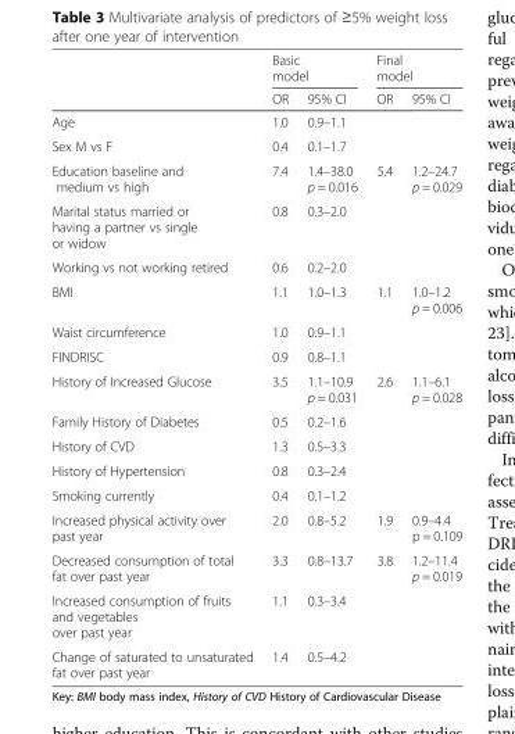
<table><thead><tr><td rowspan="2"></td><td colspan="2">Basic model</td><td colspan="2">Final model</td></tr><tr><td>OR</td><td>95% CI</td><td>OR</td><td>95% CI</td></tr></thead><tbody><tr><td>Age</td><td>1.0</td><td>0.9–1.1</td><td></td><td></td></tr><tr><td>Sex M vs F</td><td>0.4</td><td>0.1–1.7</td><td></td><td></td></tr><tr><td>Education baseline and medium vs high</td><td>7.4</td><td>1.4–38.0 p = 0.016</td><td>5.4</td><td>1.2–24.7 p = 0.029</td></tr><tr><td>Marital status married or having a partner vs single or widow</td><td>0.8</td><td>0.3–2.0</td><td></td><td></td></tr><tr><td>Working vs not working retired</td><td>0.6</td><td>0.2–2.0</td><td></td><td></td></tr><tr><td>BMI</td><td>1.1</td><td>1.0–1.3</td><td>1.1</td><td>1.0–1.2 p = 0.006</td></tr><tr><td>Waist circumference</td><td>1.0</td><td>0.9–1.1</td><td></td><td></td></tr><tr><td>FINDRISC</td><td>0.9</td><td>0.8–1.1</td><td></td><td></td></tr><tr><td>History of Increased Glucose</td><td>3.5</td><td>1.1–10.9 p = 0.031</td><td>2.6</td><td>1.1–6.1 p = 0.028</td></tr><tr><td>Family History of Diabetes</td><td>0.5</td><td>0.2–1.6</td><td></td><td></td></tr><tr><td>History of CVD</td><td>1.3</td><td>0.5–3.3</td><td></td><td></td></tr><tr><td>History of Hypertension</td><td>0.8</td><td>0.3–2.4</td><td></td><td></td></tr><tr><td>Smoking currently</td><td>0.4</td><td>0.1–1.2</td><td></td><td></td></tr><tr><td>Increased physical activity over past year</td><td>2.0</td><td>0.8–5.2</td><td>1.9</td><td>0.9–4.4 p = 0.109</td></tr><tr><td>Decreased consumption of total fat over past year</td><td>3.3</td><td>0.8–13.7</td><td>3.8</td><td>1.2–11.4 p = 0.019</td></tr><tr><td>Increased consumption of fruits and vegetables over past year</td><td>1.1</td><td>0.3–3.4</td><td></td><td></td></tr><tr><td>Change of saturated to unsaturated fat over past year</td><td>1.4</td><td>0.5–4.2</td><td></td><td></td></tr></tbody></table>